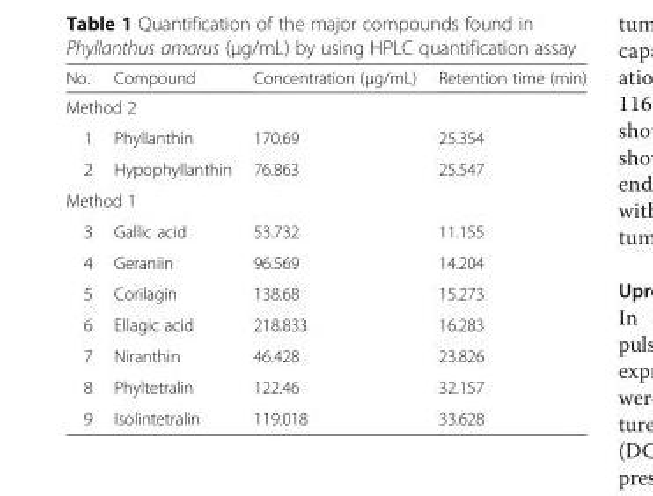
<table><thead><tr><td>No.</td><td>Compound</td><td>Concentration (μg/mL)</td><td>Retention time (min)</td></tr></thead><tbody><tr><td colspan="4">Method 2</td></tr><tr><td>1</td><td>Phyllanthin</td><td>170.69</td><td>25.354</td></tr><tr><td>2</td><td>Hypophyllanthin</td><td>76.863</td><td>25.547</td></tr><tr><td colspan="4">Method 1</td></tr><tr><td>3</td><td>Gallic acid</td><td>53.732</td><td>11.155</td></tr><tr><td>4</td><td>Geraniin</td><td>96.569</td><td>14.204</td></tr><tr><td>5</td><td>Corilagin</td><td>138.68</td><td>15.273</td></tr><tr><td>6</td><td>Ellagic acid</td><td>218.833</td><td>16.283</td></tr><tr><td>7</td><td>Niranthin</td><td>46.428</td><td>23.826</td></tr><tr><td>8</td><td>Phyltetralin</td><td>122.46</td><td>32.157</td></tr><tr><td>9</td><td>Isolintetralin</td><td>119.018</td><td>33.628</td></tr></tbody></table>